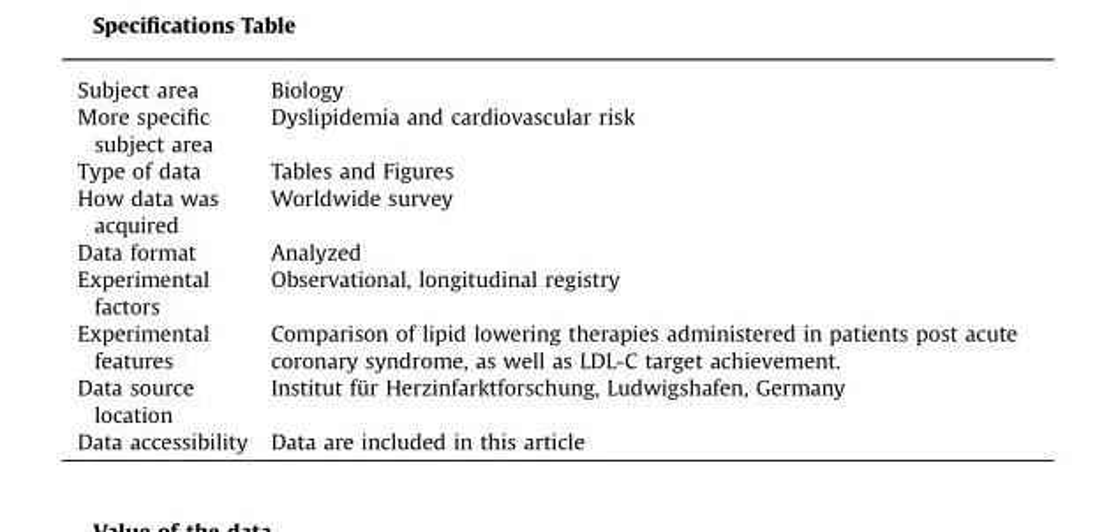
<table><tbody><tr><td>Subject area</td><td>Biology</td></tr><tr><td>More specific subject area</td><td>Dyslipidemia and cardiovascular risk</td></tr><tr><td>Type of data</td><td>Tables and Figures</td></tr><tr><td>How data was acquired</td><td>Worldwide survey</td></tr><tr><td>Data format</td><td>Analyzed</td></tr><tr><td>Experimental factors</td><td>Observational, longitudinal registry</td></tr><tr><td>Experimental features</td><td>Comparison of lipid lowering therapies administered in patients post acute coronary syndrome, as well as LDL-C target achievement.</td></tr><tr><td>Data source location</td><td>Institut für Herzinfarktforschung, Ludwigshafen, Germany</td></tr><tr><td>Data accessibility</td><td>Data are included in this article</td></tr></tbody></table>